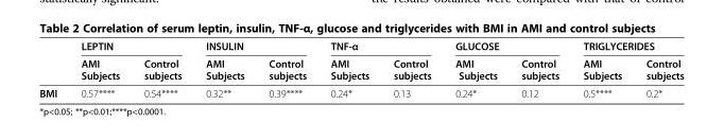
<table><thead><tr><td rowspan="2"></td><td colspan="2">LEPTIN</td><td colspan="2">INSULIN</td><td colspan="2">TNF-α</td><td colspan="2">GLUCOSE</td><td colspan="2">TRIGLYCERIDES</td></tr><tr><td>AMI Subjects</td><td>Control subjects</td><td>AMI Subjects</td><td>Control subjects</td><td>AMI Subjects</td><td>Control subjects</td><td>AMI Subjects</td><td>Control subjects</td><td>AMI Subjects</td><td>Control subjects</td></tr></thead><tbody><tr><td>BMI</td><td>0.57****</td><td>0.54****</td><td>0.32**</td><td>0.39****</td><td>0.24*</td><td>0.13</td><td>0.24*</td><td>0.12</td><td>0.5****</td><td>0.2*</td></tr></tbody></table>